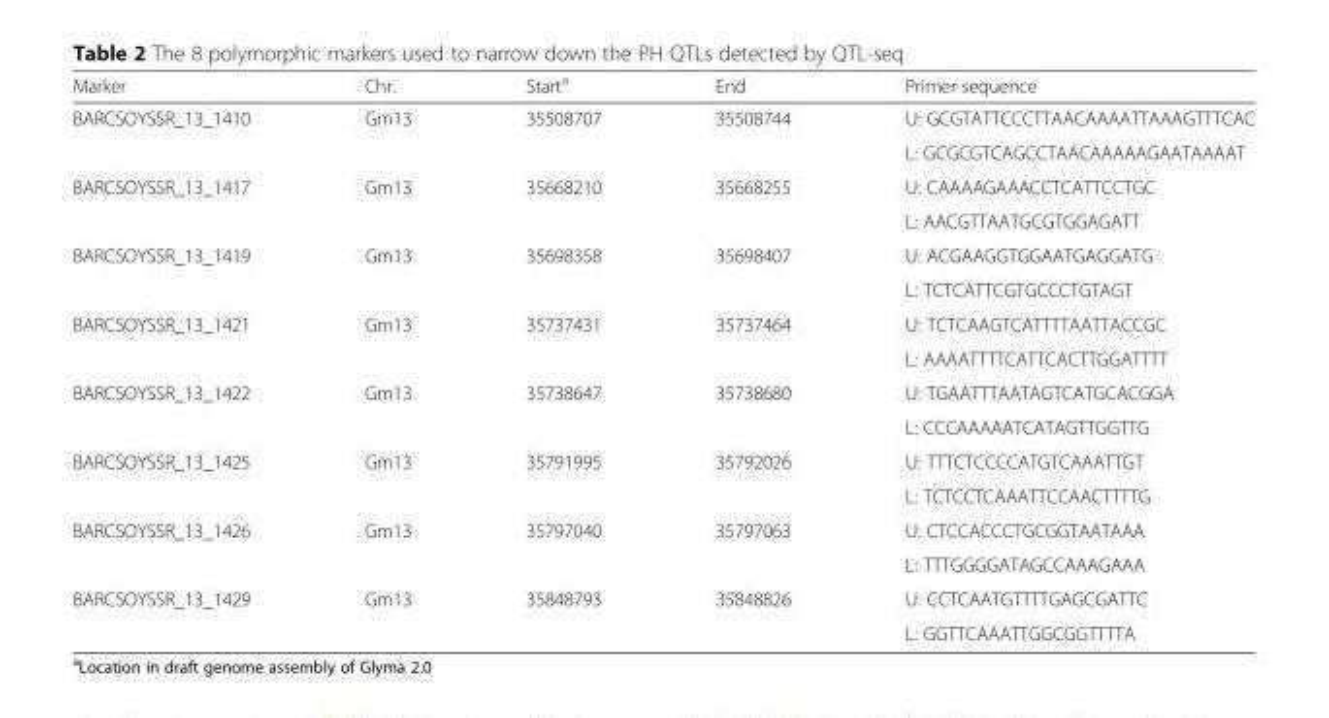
<table><thead><tr><td>Marker</td><td>Chr.</td><td>Start<sup>a</sup></td><td>End</td><td>Primer sequence</td></tr></thead><tbody><tr><td rowspan="2">BARCSOYSSR_13_1410</td><td rowspan="2">Gm13</td><td rowspan="2">35508707</td><td rowspan="2">35508744</td><td>U: GCGTATTCCCTTAACAAAATTAAAGTTTCAC</td></tr><tr><td>L: GCGCGTCAGCCTAACAAAAAGAATAAAAT</td></tr><tr><td rowspan="2">BARCSOYSSR_13_1417</td><td rowspan="2">Gm13</td><td rowspan="2">35668210</td><td rowspan="2">35668255</td><td>U: CAAAAGAAACCTCATTCCTGC</td></tr><tr><td>L: AACGTTAATGCGTGGAGATT</td></tr><tr><td rowspan="2">BARCSOYSSR_13_1419</td><td rowspan="2">Gm13</td><td rowspan="2">35698358</td><td rowspan="2">35698407</td><td>U: ACGAAGGTGGAATGAGGATG</td></tr><tr><td>L: TCTCATTCGTGCCCTGTAGT</td></tr><tr><td rowspan="2">BARCSOYSSR_13_1421</td><td rowspan="2">Gm13</td><td rowspan="2">35737431</td><td rowspan="2">35737464</td><td>U: TCTCAAGTCATTTTAATTACCGC</td></tr><tr><td>L: AAAATTTTCATTCACTTGGATTTT</td></tr><tr><td rowspan="2">BARCSOYSSR_13_1422</td><td rowspan="2">Gm13</td><td rowspan="2">35738647</td><td rowspan="2">35738680</td><td>U: TGAATTTAATAGTCATGCACGGA</td></tr><tr><td>L: CCCAAAAATCATAGTTGGTTG</td></tr><tr><td rowspan="2">BARCSOYSSR_13_1425</td><td rowspan="2">Gm13</td><td rowspan="2">35791995</td><td rowspan="2">35792026</td><td>U: TTTCTCCCCATGTCAAATTGT</td></tr><tr><td>L: TCTCCTCAAATTCCAACTTTTG</td></tr><tr><td rowspan="2">BARCSOYSSR_13_1426</td><td rowspan="2">Gm13</td><td rowspan="2">35797040</td><td rowspan="2">35797063</td><td>U: CTCCACCCTGCGGTAATAAA</td></tr><tr><td>L: TTTGGGGATAGCCAAAGAAA</td></tr><tr><td rowspan="2">BARCSOYSSR_13_1429</td><td rowspan="2">Gm13</td><td rowspan="2">35848793</td><td rowspan="2">35848826</td><td>U: CCTCAATGTTTTGAGCGATTC</td></tr><tr><td>L: GGTTCAAATTGGCGGTTTTA</td></tr></tbody></table>